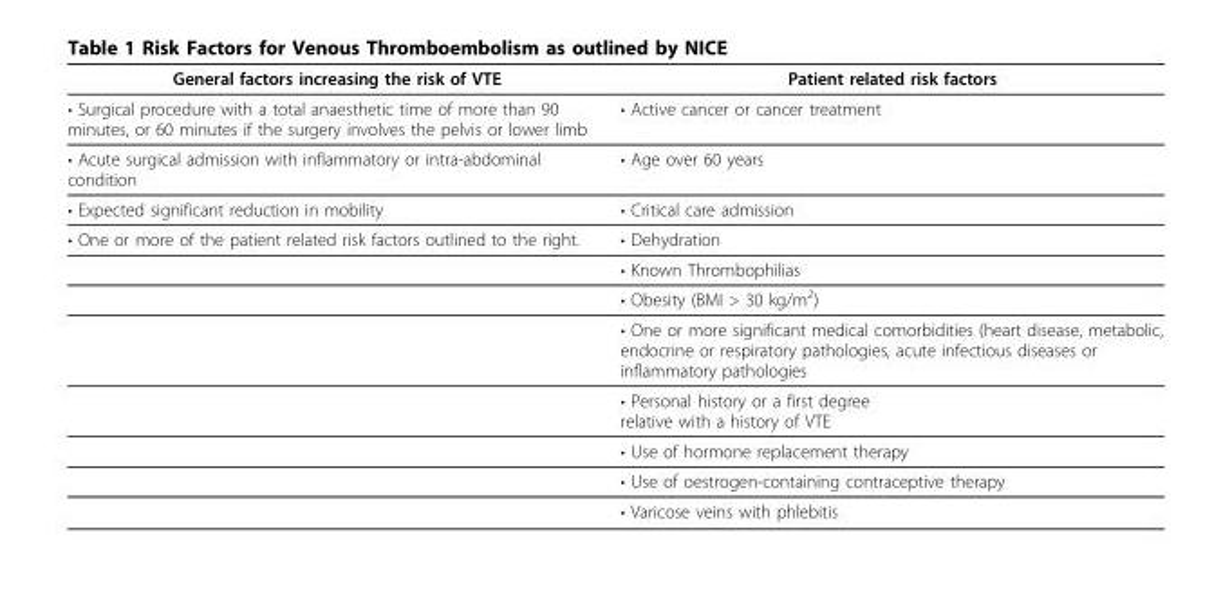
<table><thead><tr><td>General factors increasing the risk of VTE</td><td>Patient related risk factors</td></tr></thead><tbody><tr><td>• Surgical procedure with a total anaesthetic time of more than 90 minutes, or 60 minutes if the surgery involves the pelvis or lower limb</td><td>• Active cancer or cancer treatment</td></tr><tr><td>• Acute surgical admission with inflammatory or intra-abdominal condition</td><td>• Age over 60 years</td></tr><tr><td>• Expected significant reduction in mobility</td><td>• Critical care admission</td></tr><tr><td rowspan="8">• One or more of the patient related risk factors outlined to the right.</td><td>• Dehydration</td></tr><tr><td>• Known Thrombophilias</td></tr><tr><td>• Obesity (BMI &gt; 30 kg/m<sup>2</sup>)</td></tr><tr><td>• One or more significant medical comorbidities (heart disease, metabolic, endocrine or respiratory pathologies, acute infectious diseases or inflammatory pathologies</td></tr><tr><td>• Personal history or a first degree relative with a history of VTE</td></tr><tr><td>• Use of hormone replacement therapy</td></tr><tr><td>• Use of oestrogen-containing contraceptive therapy</td></tr><tr><td>• Varicose veins with phlebitis</td></tr></tbody></table>